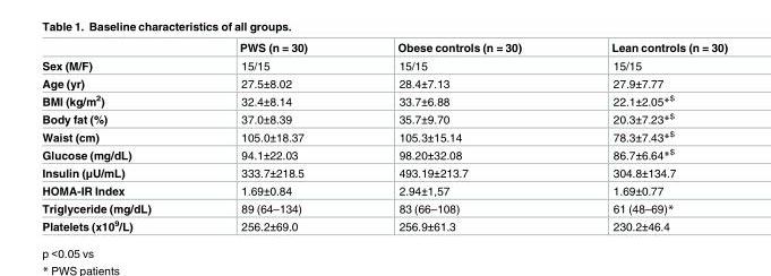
<table><thead><tr><td></td><td>PWS (n = 30)</td><td>Obese controls (n = 30)</td><td>Lean controls (n = 30)</td></tr></thead><tbody><tr><td>Sex (M/F)</td><td>15/15</td><td>15/15</td><td>15/15</td></tr><tr><td>Age (yr)</td><td>27.5±8.02</td><td>28.4±7.13</td><td>27.9±7.77</td></tr><tr><td>BMI (kg/m<sup>2</sup>)</td><td>32.4±8.14</td><td>33.7±6.88</td><td>22.1±2.05*<sup>$</sup></td></tr><tr><td>Body fat (%)</td><td>37.0±8.39</td><td>35.7±9.70</td><td>20.3±7.23*<sup>$</sup></td></tr><tr><td>Waist (cm)</td><td>105.0±18.37</td><td>105.3±15.14</td><td>78.3±7.43*<sup>$</sup></td></tr><tr><td>Glucose (mg/dL)</td><td>94.1±22.03</td><td>98.20±32.08</td><td>86.7±6.64*<sup>$</sup></td></tr><tr><td>Insulin (μU/mL)</td><td>333.7±218.5</td><td>493.19±213.7</td><td>304.8±134.7</td></tr><tr><td>HOMA-IR Index</td><td>1.69±0.84</td><td>2.94±1,57</td><td>1.69±0.77</td></tr><tr><td>Triglyceride (mg/dL)</td><td>89 (64–134)</td><td>83 (66–108)</td><td>61 (48–69)*</td></tr><tr><td>Platelets (x10<sup>9</sup>/L)</td><td>256.2±69.0</td><td>256.9±61.3</td><td>230.2±46.4</td></tr></tbody></table>